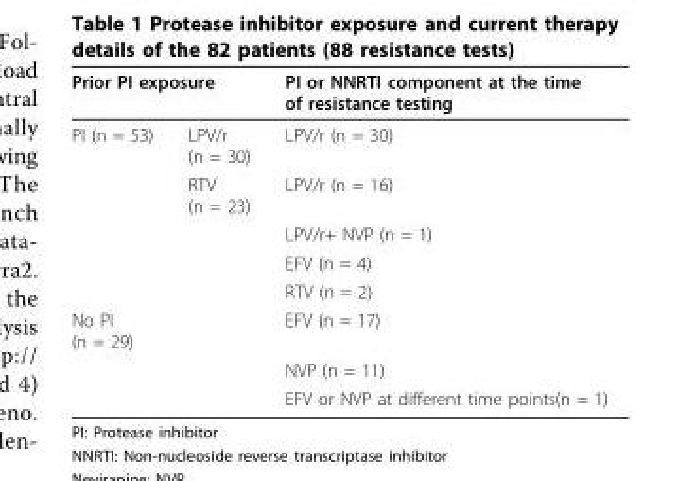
<table><thead><tr><td colspan="2">Prior PI exposure</td><td rowspan="2">PI or NNRTI component at the time of resistance testing LPV/r (n = 30)</td></tr><tr><td>PI (n = 53)</td><td>LPV/r (n = 30)</td></tr></thead><tbody><tr><td></td><td>RTV (n = 23)</td><td>LPV/r (n = 16)</td></tr><tr><td></td><td></td><td>LPV/r+ NVP (n = 1)</td></tr><tr><td></td><td></td><td>EFV (n = 4)</td></tr><tr><td></td><td></td><td>RTV (n = 2)</td></tr><tr><td rowspan="3">No PI (n = 29)</td><td></td><td>EFV (n = 17)</td></tr><tr><td></td><td>NVP (n = 11)</td></tr><tr><td></td><td>EFV or NVP at different time points(n = 1)</td></tr></tbody></table>